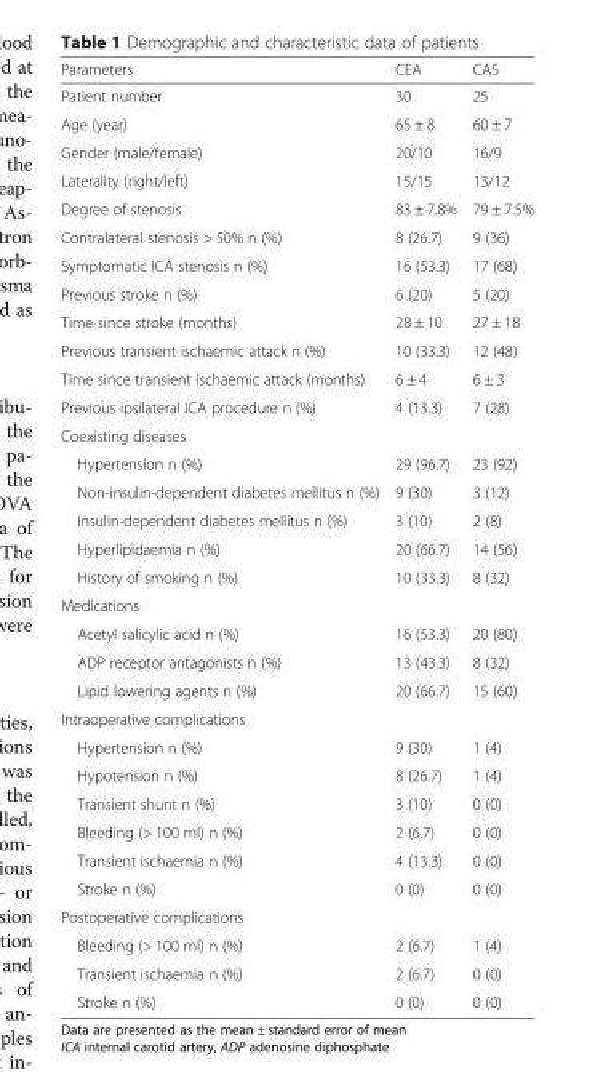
<table><thead><tr><td>Parameters</td><td>CEA</td><td>CAS</td></tr></thead><tbody><tr><td>Patient number</td><td>30</td><td>25</td></tr><tr><td>Age (year)</td><td>65 ± 8</td><td>60 ± 7</td></tr><tr><td>Gender (male/female)</td><td>20/10</td><td>16/9</td></tr><tr><td>Laterality (right/left)</td><td>15/15</td><td>13/12</td></tr><tr><td>Degree of stenosis</td><td>83 ± 7.8%</td><td>79 ± 7.5%</td></tr><tr><td>Contralateral stenosis &gt; 50% n (%)</td><td>8 (26.7)</td><td>9 (36)</td></tr><tr><td>Symptomatic ICA stenosis n (%)</td><td>16 (53.3)</td><td>17 (68)</td></tr><tr><td>Previous stroke n (%)</td><td>6 (20)</td><td>5 (20)</td></tr><tr><td>Time since stroke (months)</td><td>28 ± 10</td><td>27 ± 18</td></tr><tr><td>Previous transient ischaemic attack n (%)</td><td>10 (33.3)</td><td>12 (48)</td></tr><tr><td>Time since transient ischaemic attack (months)</td><td>6 ± 4</td><td>6 ± 3</td></tr><tr><td>Previous ipsilateral ICA procedure n (%)</td><td>4 (13.3)</td><td>7 (28)</td></tr><tr><td colspan="3">Coexisting diseases</td></tr><tr><td>Hypertension n (%)</td><td>29 (96.7)</td><td>23 (92)</td></tr><tr><td>Non-insulin-dependent diabetes mellitus n (%)</td><td>9 (30)</td><td>3 (12)</td></tr><tr><td>Insulin-dependent diabetes mellitus n (%)</td><td>3 (10)</td><td>2 (8)</td></tr><tr><td>Hyperlipidaemia n (%)</td><td>20 (66.7)</td><td>14 (56)</td></tr><tr><td>History of smoking n (%)</td><td>10 (33.3)</td><td>8 (32)</td></tr><tr><td colspan="3">Medications</td></tr><tr><td>Acetyl salicylic acid n (%)</td><td>16 (53.3)</td><td>20 (80)</td></tr><tr><td>ADP receptor antagonists n (%)</td><td>13 (43.3)</td><td>8 (32)</td></tr><tr><td>Lipid lowering agents n (%)</td><td>20 (66.7)</td><td>15 (60)</td></tr><tr><td colspan="3">Intraoperative complications</td></tr><tr><td>Hypertension n (%)</td><td>9 (30)</td><td>1 (4)</td></tr><tr><td>Hypotension n (%)</td><td>8 (26.7)</td><td>1 (4)</td></tr><tr><td>Transient shunt n (%)</td><td>3 (10)</td><td>0 (0)</td></tr><tr><td>Bleeding (&gt; 100 ml) n (%)</td><td>2 (6.7)</td><td>0 (0)</td></tr><tr><td>Transient ischaemia n (%)</td><td>4 (13.3)</td><td>0 (0)</td></tr><tr><td>Stroke n (%)</td><td>0 (0)</td><td>0 (0)</td></tr><tr><td colspan="3">Postoperative complications</td></tr><tr><td>Bleeding (&gt; 100 ml) n (%)</td><td>2 (6.7)</td><td>1 (4)</td></tr><tr><td>Transient ischaemia n (%)</td><td>2 (6.7)</td><td>0 (0)</td></tr><tr><td>Stroke n (%)</td><td>0 (0)</td><td>0 (0)</td></tr></tbody></table>